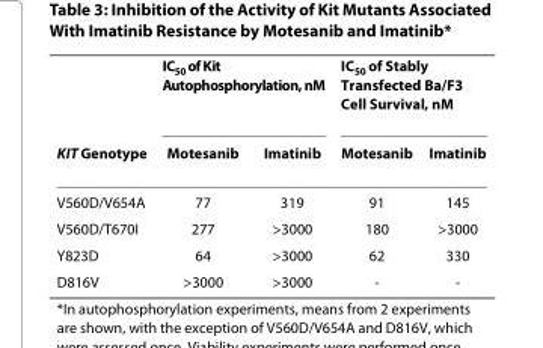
<table><thead><tr><td rowspan="2">KIT Genotype</td><td colspan="2">IC<sub>50</sub> of Kit Autophosphorylation, nM</td><td colspan="2">IC<sub>50</sub> of Stably Transfected Ba/F3 Cell Survival, nM</td></tr><tr><td>Motesanib</td><td>Imatinib</td><td>Motesanib</td><td>Imatinib</td></tr></thead><tbody><tr><td>V560D/V654A</td><td>77</td><td>319</td><td>91</td><td>145</td></tr><tr><td>V560D/T670I</td><td>277</td><td>&gt;3000</td><td>180</td><td>&gt;3000</td></tr><tr><td>Y823D</td><td>64</td><td>&gt;3000</td><td>62</td><td>330</td></tr><tr><td>D816V</td><td>&gt;3000</td><td>&gt;3000</td><td>-</td><td>-</td></tr></tbody></table>